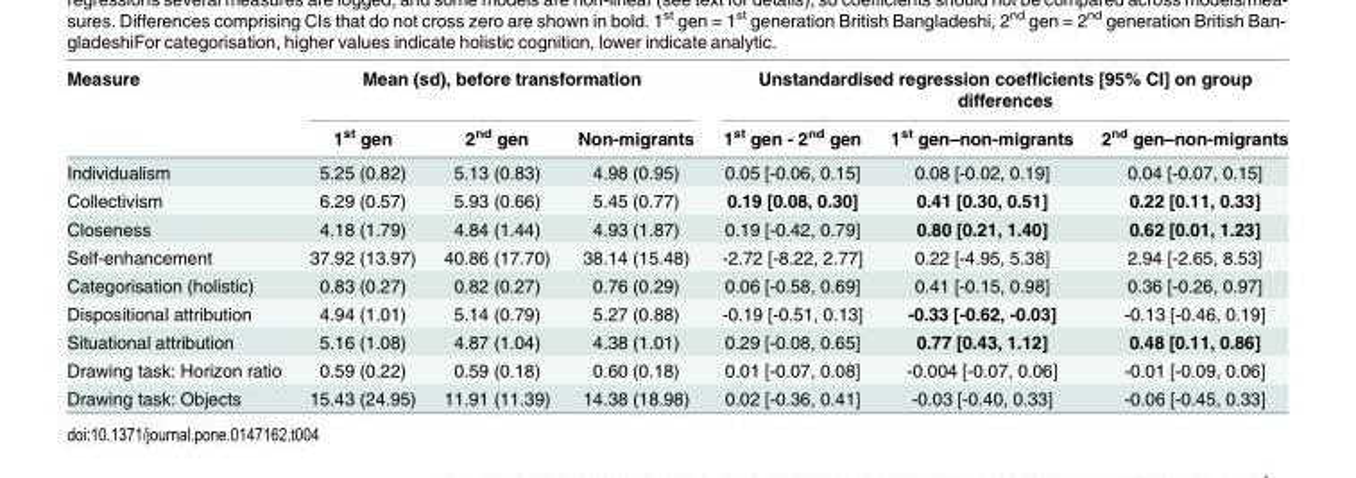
<table><thead><tr><td rowspan="2">Measure</td><td colspan="3">Mean (sd), before transformation</td><td colspan="3">Unstandardised regression coefficients [95% CI] on group differences</td></tr><tr><td>1<sup>st</sup> gen</td><td>2<sup>nd</sup> gen</td><td>Non-migrants</td><td>1<sup>st</sup> gen - 2<sup>nd</sup> gen</td><td>1<sup>st</sup> gen–non-migrants</td><td>2<sup>nd</sup> gen–non-migrants</td></tr></thead><tbody><tr><td>Individualism</td><td>5.25 (0.82)</td><td>5.13 (0.83)</td><td>4.98 (0.95)</td><td>0.05 [-0.06, 0.15]</td><td>0.08 [-0.02, 0.19]</td><td>0.04 [-0.07, 0.15]</td></tr><tr><td>Collectivism</td><td>6.29 (0.57)</td><td>5.93 (0.66)</td><td>5.45 (0.77)</td><td>0.19 [0.08, 0.30]</td><td>0.41 [0.30, 0.51]</td><td>0.22 [0.11, 0.33]</td></tr><tr><td>Closeness</td><td>4.18 (1.79)</td><td>4.84 (1.44)</td><td>4.93 (1.87)</td><td>0.19 [-0.42, 0.79]</td><td>0.80 [0.21, 1.40]</td><td>0.62 [0.01, 1.23]</td></tr><tr><td>Self-enhancement</td><td>37.92 (13.97)</td><td>40.86 (17.70)</td><td>38.14 (15.48)</td><td>-2.72 [-8.22, 2.77]</td><td>0.22 [-4.95, 5.38]</td><td>2.94 [-2.65, 8.53]</td></tr><tr><td>Categorisation (holistic)</td><td>0.83 (0.27)</td><td>0.82 (0.27)</td><td>0.76 (0.29)</td><td>0.06 [-0.58, 0.69]</td><td>0.41 [-0.15, 0.98]</td><td>0.36 [-0.26, 0.97]</td></tr><tr><td>Dispositional attribution</td><td>4.94 (1.01)</td><td>5.14 (0.79)</td><td>5.27 (0.88)</td><td>-0.19 [-0.51, 0.13]</td><td>-0.33 [-0.62, -0.03]</td><td>-0.13 [-0.46, 0.19]</td></tr><tr><td>Situational attribution</td><td>5.16 (1.08)</td><td>4.87 (1.04)</td><td>4.38 (1.01)</td><td>0.29 [-0.08, 0.65]</td><td>0.77 [0.43, 1.12]</td><td>0.48 [0.11, 0.86]</td></tr><tr><td>Drawing task: Horizon ratio</td><td>0.59 (0.22)</td><td>0.59 (0.18)</td><td>0.60 (0.18)</td><td>0.01 [-0.07, 0.08]</td><td>-0.004 [-0.07, 0.06]</td><td>-0.01 [-0.09, 0.06]</td></tr><tr><td>Drawing task: Objects</td><td>15.43 (24.95)</td><td>11.91 (11.39)</td><td>14.38 (18.98)</td><td>0.02 [-0.36, 0.41]</td><td>-0.03 [-0.40, 0.33]</td><td>-0.06 [-0.45, 0.33]</td></tr></tbody></table>